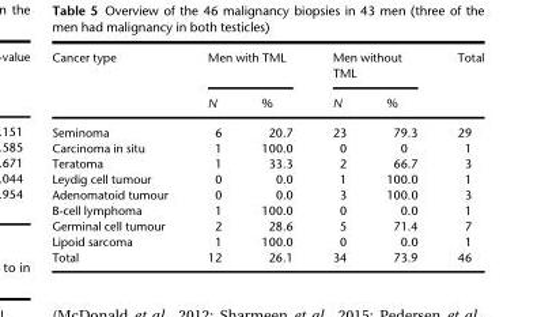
<table><thead><tr><td rowspan="2">Cancer type</td><td colspan="2">Men with TML</td><td colspan="2">Men without TML</td><td rowspan="2">Total</td></tr><tr><td>N</td><td>%</td><td>N</td><td>%</td></tr></thead><tbody><tr><td>Seminoma</td><td>6</td><td>20.7</td><td>23</td><td>79.3</td><td>29</td></tr><tr><td>Carcinoma in situ</td><td>1</td><td>100.0</td><td>0</td><td>0</td><td>1</td></tr><tr><td>Teratoma</td><td>1</td><td>33.3</td><td>2</td><td>66.7</td><td>3</td></tr><tr><td>Leydig cell tumour</td><td>0</td><td>0.0</td><td>1</td><td>100.0</td><td>1</td></tr><tr><td>Adenomatoid tumour</td><td>0</td><td>0.0</td><td>3</td><td>100.0</td><td>3</td></tr><tr><td>B-cell lymphoma</td><td>1</td><td>100.0</td><td>0</td><td>0.0</td><td>1</td></tr><tr><td>Germinal cell tumour</td><td>2</td><td>28.6</td><td>5</td><td>71.4</td><td>7</td></tr><tr><td>Lipoid sarcoma</td><td>1</td><td>100.0</td><td>0</td><td>0.0</td><td>1</td></tr><tr><td>Total</td><td>12</td><td>26.1</td><td>34</td><td>73.9</td><td>46</td></tr></tbody></table>